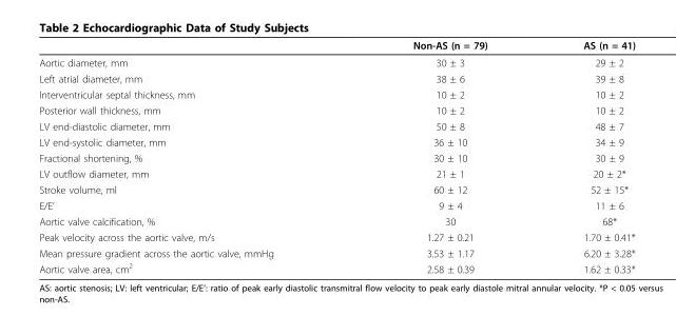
<table><thead><tr><td></td><td>Non-AS (n = 79)</td><td>AS (n = 41)</td></tr></thead><tbody><tr><td>Aortic diameter, mm</td><td>30 ± 3</td><td>29 ± 2</td></tr><tr><td>Left atrial diameter, mm</td><td>38 ± 6</td><td>39 ± 8</td></tr><tr><td>Interventricular septal thickness, mm</td><td>10 ± 2</td><td>10 ± 2</td></tr><tr><td>Posterior wall thickness, mm</td><td>10 ± 2</td><td>10 ± 2</td></tr><tr><td>LV end-diastolic diameter, mm</td><td>50 ± 8</td><td>48 ± 7</td></tr><tr><td>LV end-systolic diameter, mm</td><td>36 ± 10</td><td>34 ± 9</td></tr><tr><td>Fractional shortening, %</td><td>30 ± 10</td><td>30 ± 9</td></tr><tr><td>LV outflow diameter, mm</td><td>21 ± 1</td><td>20 ± 2*</td></tr><tr><td>Stroke volume, ml</td><td>60 ± 12</td><td>52 ± 15*</td></tr><tr><td>E/E’</td><td>9 ± 4</td><td>11 ± 6</td></tr><tr><td>Aortic valve calcification, %</td><td>30</td><td>68*</td></tr><tr><td>Peak velocity across the aortic valve, m/s</td><td>1.27 ± 0.21</td><td>1.70 ± 0.41*</td></tr><tr><td>Mean pressure gradient across the aortic valve, mmHg</td><td>3.53 ± 1.17</td><td>6.20 ± 3.28*</td></tr><tr><td>Aortic valve area, cm<sup>2</sup></td><td>2.58 ± 0.39</td><td>1.62 ± 0.33*</td></tr></tbody></table>